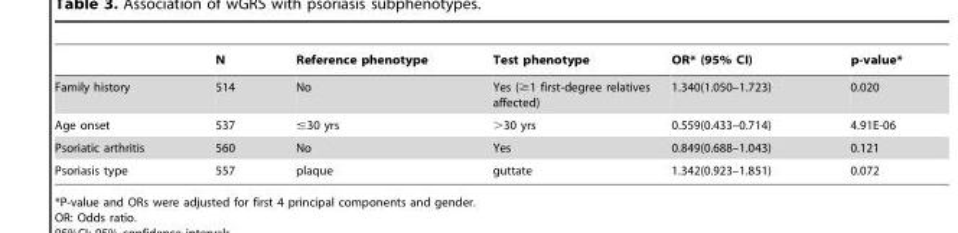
<table><thead><tr><td></td><td>N</td><td>Reference phenotype</td><td>Test phenotype</td><td>OR* (95% CI)</td><td>p-value*</td></tr></thead><tbody><tr><td>Family history</td><td>514</td><td>No</td><td>Yes (≥1 first-degree relatives affected)</td><td>1.340(1.050–1.723)</td><td>0.020</td></tr><tr><td>Age onset</td><td>537</td><td>≤30 yrs</td><td>&gt;30 yrs</td><td>0.559(0.433–0.714)</td><td>4.91E-06</td></tr><tr><td>Psoriatic arthritis</td><td>560</td><td>No</td><td>Yes</td><td>0.849(0.688–1.043)</td><td>0.121</td></tr><tr><td>Psoriasis type</td><td>557</td><td>plaque</td><td>guttate</td><td>1.342(0.923–1.851)</td><td>0.072</td></tr></tbody></table>